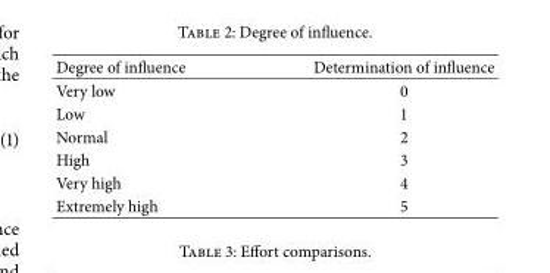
<table><thead><tr><td>Degree of influence</td><td>Determination of influence</td></tr></thead><tbody><tr><td>Very low</td><td>0</td></tr><tr><td>Low</td><td>1</td></tr><tr><td>Normal</td><td>2</td></tr><tr><td>High</td><td>3</td></tr><tr><td>Very high</td><td>4</td></tr><tr><td>Extremely high</td><td>5</td></tr></tbody></table>